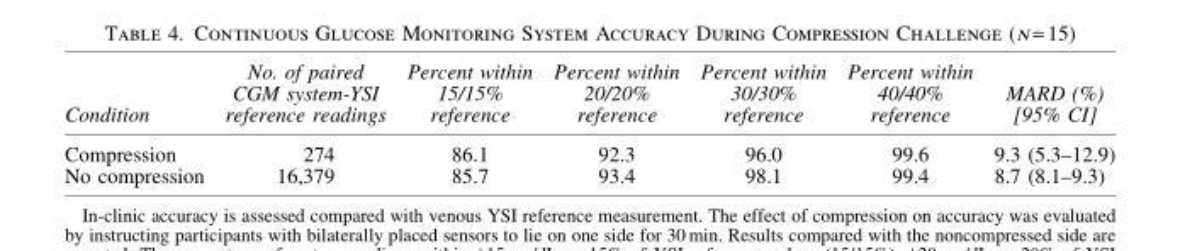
<table><thead><tr><td>Condition</td><td>No. of paired CGM system-YSI reference readings</td><td>Percent within 15/15% reference</td><td>Percent within 20/20% reference</td><td>Percent within 30/30% reference</td><td>Percent within 40/40% reference</td><td>MARD (%) [95% CI]</td></tr></thead><tbody><tr><td>Compression</td><td>274</td><td>86.1</td><td>92.3</td><td>96.0</td><td>99.6</td><td>9.3 (5.3–12.9)</td></tr><tr><td>No compression</td><td>16,379</td><td>85.7</td><td>93.4</td><td>98.1</td><td>99.4</td><td>8.7 (8.1–9.3)</td></tr></tbody></table>